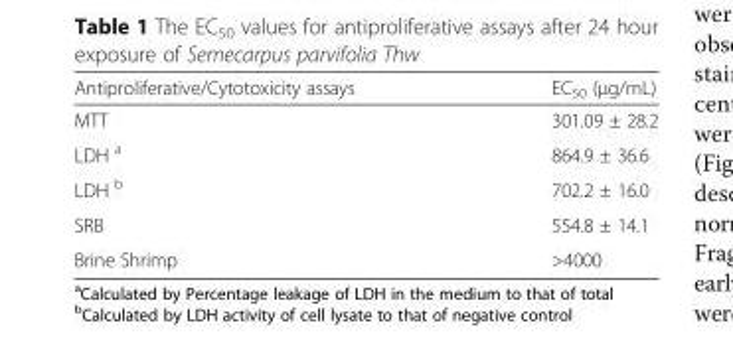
<table><thead><tr><td>Antiproliferative/Cytotoxicity assays</td><td>EC<sub>50</sub> (μg/mL)</td></tr></thead><tbody><tr><td>MTT</td><td>301.09 ± 28.2</td></tr><tr><td>LDH <sup>a</sup></td><td>864.9 ± 36.6</td></tr><tr><td>LDH <sup>b</sup></td><td>702.2 ± 16.0</td></tr><tr><td>SRB</td><td>554.8 ± 14.1</td></tr><tr><td>Brine Shrimp</td><td>&gt;4000</td></tr></tbody></table>